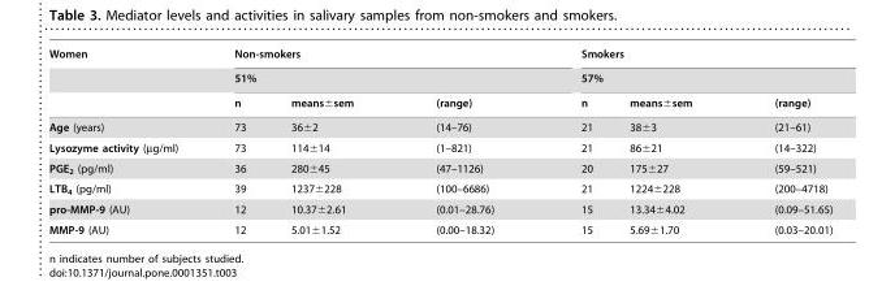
<table><thead><tr><td rowspan="3">Women</td><td rowspan="2" colspan="3">Non-smokers 51%</td><td rowspan="2" colspan="3">Smokers 57%</td></tr><tr></tr><tr><td>n</td><td>means±sem</td><td>(range)</td><td>n</td><td>means±sem</td><td>(range)</td></tr></thead><tbody><tr><td>Age (years)</td><td>73</td><td>36±2</td><td>(14–76)</td><td>21</td><td>38±3</td><td>(21–61)</td></tr><tr><td>Lysozyme activity (µg/ml)</td><td>73</td><td>114±14</td><td>(1–821)</td><td>21</td><td>86±21</td><td>(14–322)</td></tr><tr><td>PGE<sub>2</sub> (pg/ml)</td><td>36</td><td>280±45</td><td>(47–1126)</td><td>20</td><td>175±27</td><td>(59–521)</td></tr><tr><td>LTB<sub>4</sub> (pg/ml)</td><td>39</td><td>1237±228</td><td>(100–6686)</td><td>21</td><td>1224±228</td><td>(200–4718)</td></tr><tr><td>pro-MMP-9 (AU)</td><td>12</td><td>10.37±2.61</td><td>(0.01–28.76)</td><td>15</td><td>13.34±4.02</td><td>(0.09–51.65)</td></tr><tr><td>MMP-9 (AU)</td><td>12</td><td>5.01±1.52</td><td>(0.00–18.32)</td><td>15</td><td>5.69±1.70</td><td>(0.03–20.01)</td></tr></tbody></table>